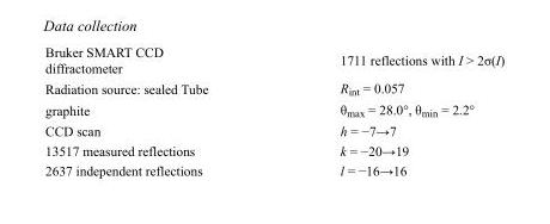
<table><tbody><tr><td>Bruker SMART CCD diffractometer</td><td>1711 reflections with I &gt; 2σ(I)</td></tr><tr><td>Radiation source: sealed Tube</td><td>R<sub>int</sub> = 0.057</td></tr><tr><td>graphite</td><td>θ<sub>max</sub> = 28.0°, θ<sub>min</sub> = 2.2°</td></tr><tr><td>CCD scan</td><td>h = −7→7</td></tr><tr><td>13517 measured reflections</td><td>k = −20→19</td></tr><tr><td>2637 independent reflections</td><td>l = −16→16</td></tr></tbody></table>